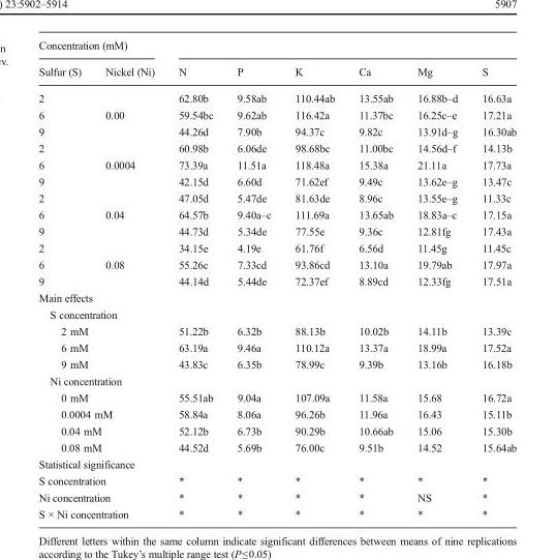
<table><thead><tr><td colspan="2">Concentration (mM)</td><td rowspan="2">N</td><td rowspan="2">P</td><td rowspan="2">K</td><td rowspan="2">Ca</td><td rowspan="2">Mg</td><td rowspan="2">S</td></tr><tr><td>Sulfur (S)</td><td>Nickel (Ni)</td></tr></thead><tbody><tr><td>2</td><td></td><td>62.80b</td><td>9.58ab</td><td>110.44ab</td><td>13.55ab</td><td>16.88b–d</td><td>16.63a</td></tr><tr><td>6</td><td>0.00</td><td>59.54bc</td><td>9.62ab</td><td>116.42a</td><td>11.37bc</td><td>16.25c–e</td><td>17.21a</td></tr><tr><td>9</td><td></td><td>44.26d</td><td>7.90b</td><td>94.37c</td><td>9.82c</td><td>13.91d–g</td><td>16.30ab</td></tr><tr><td>2</td><td></td><td>60.98b</td><td>6.06de</td><td>98.68bc</td><td>11.00bc</td><td>14.56d–f</td><td>14.13b</td></tr><tr><td>6</td><td>0.0004</td><td>73.39a</td><td>11.51a</td><td>118.48a</td><td>15.38a</td><td>21.11a</td><td>17.73a</td></tr><tr><td>9</td><td></td><td>42.15d</td><td>6.60d</td><td>71.62ef</td><td>9.49c</td><td>13.62e–g</td><td>13.47c</td></tr><tr><td>2</td><td></td><td>47.05d</td><td>5.47de</td><td>81.63de</td><td>8.96c</td><td>13.55e–g</td><td>11.33c</td></tr><tr><td>6</td><td>0.04</td><td>64.57b</td><td>9.40a–c</td><td>111.69a</td><td>13.65ab</td><td>18.83a–c</td><td>17.15a</td></tr><tr><td>9</td><td></td><td>44.73d</td><td>5.34de</td><td>77.55e</td><td>9.36c</td><td>12.81fg</td><td>17.43a</td></tr><tr><td>2</td><td></td><td>34.15e</td><td>4.19e</td><td>61.76f</td><td>6.56d</td><td>11.45g</td><td>11.45c</td></tr><tr><td>6</td><td>0.08</td><td>55.26c</td><td>7.33cd</td><td>93.86cd</td><td>13.10a</td><td>19.79ab</td><td>17.97a</td></tr><tr><td>9</td><td></td><td>44.14d</td><td>5.44de</td><td>72.37ef</td><td>8.89cd</td><td>12.33fg</td><td>17.51a</td></tr><tr><td colspan="8">Main effects</td></tr><tr><td colspan="8">S concentration</td></tr><tr><td colspan="2">2 mM</td><td>51.22b</td><td>6.32b</td><td>88.13b</td><td>10.02b</td><td>14.11b</td><td>13.39c</td></tr><tr><td colspan="2">6 mM</td><td>63.19a</td><td>9.46a</td><td>110.12a</td><td>13.37a</td><td>18.99a</td><td>17.52a</td></tr><tr><td colspan="2">9 mM</td><td>43.83c</td><td>6.35b</td><td>78.99c</td><td>9.39b</td><td>13.16b</td><td>16.18b</td></tr><tr><td colspan="8">Ni concentration</td></tr><tr><td colspan="2">0 mM</td><td>55.51ab</td><td>9.04a</td><td>107.09a</td><td>11.58a</td><td>15.68</td><td>16.72a</td></tr><tr><td colspan="2">0.0004 mM</td><td>58.84a</td><td>8.06a</td><td>96.26b</td><td>11.96a</td><td>16.43</td><td>15.11b</td></tr><tr><td colspan="2">0.04 mM</td><td>52.12b</td><td>6.73b</td><td>90.29b</td><td>10.66ab</td><td>15.06</td><td>15.30b</td></tr><tr><td colspan="2">0.08 mM</td><td>44.52d</td><td>5.69b</td><td>76.00c</td><td>9.51b</td><td>14.52</td><td>15.64ab</td></tr><tr><td colspan="8">Statistical significance</td></tr><tr><td colspan="2">S concentration</td><td>*</td><td>*</td><td>*</td><td>*</td><td>*</td><td>*</td></tr><tr><td colspan="2">Ni concentration</td><td>*</td><td>*</td><td>*</td><td>*</td><td>NS</td><td>*</td></tr><tr><td colspan="2">S × Ni concentration</td><td>*</td><td>*</td><td>*</td><td>*</td><td>*</td><td>*</td></tr></tbody></table>